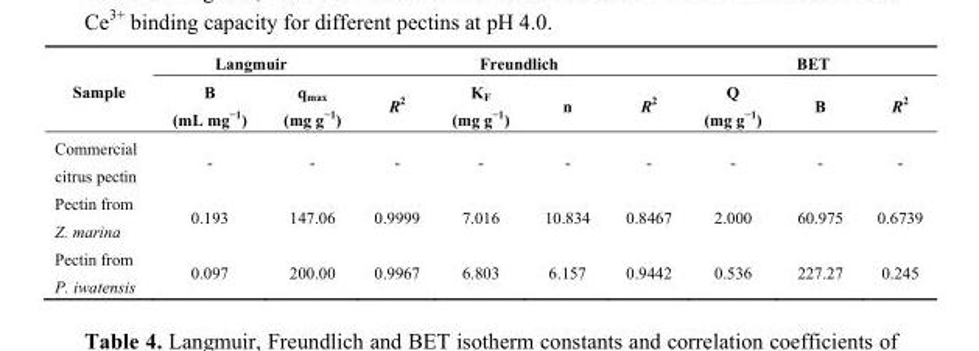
<table><thead><tr><td rowspan="2">Sample</td><td colspan="2">Langmuir</td><td colspan="4">Freundlich</td><td colspan="3">BET</td></tr><tr><td>B (mL mg<sup>−1</sup>)</td><td>q<sub>max</sub> (mg g<sup>−1</sup>)</td><td>R<sup>2</sup></td><td>K<sub>F</sub> (mg g<sup>−1</sup>)</td><td>n</td><td>R<sup>2</sup></td><td>Q (mg g<sup>−1</sup>)</td><td>B</td><td>R<sup>2</sup></td></tr></thead><tbody><tr><td>Commercial citrus pectin</td><td>-</td><td>-</td><td>-</td><td>-</td><td>-</td><td>-</td><td>-</td><td>-</td><td>-</td></tr><tr><td>Pectin from Z. marina</td><td>0.193</td><td>147.06</td><td>0.9999</td><td>7.016</td><td>10.834</td><td>0.8467</td><td>2.000</td><td>60.975</td><td>0.6739</td></tr><tr><td>Pectin from P. iwatensis</td><td>0.097</td><td>200.00</td><td>0.9967</td><td>6.803</td><td>6.157</td><td>0.9442</td><td>0.536</td><td>227.27</td><td>0.245</td></tr></tbody></table>